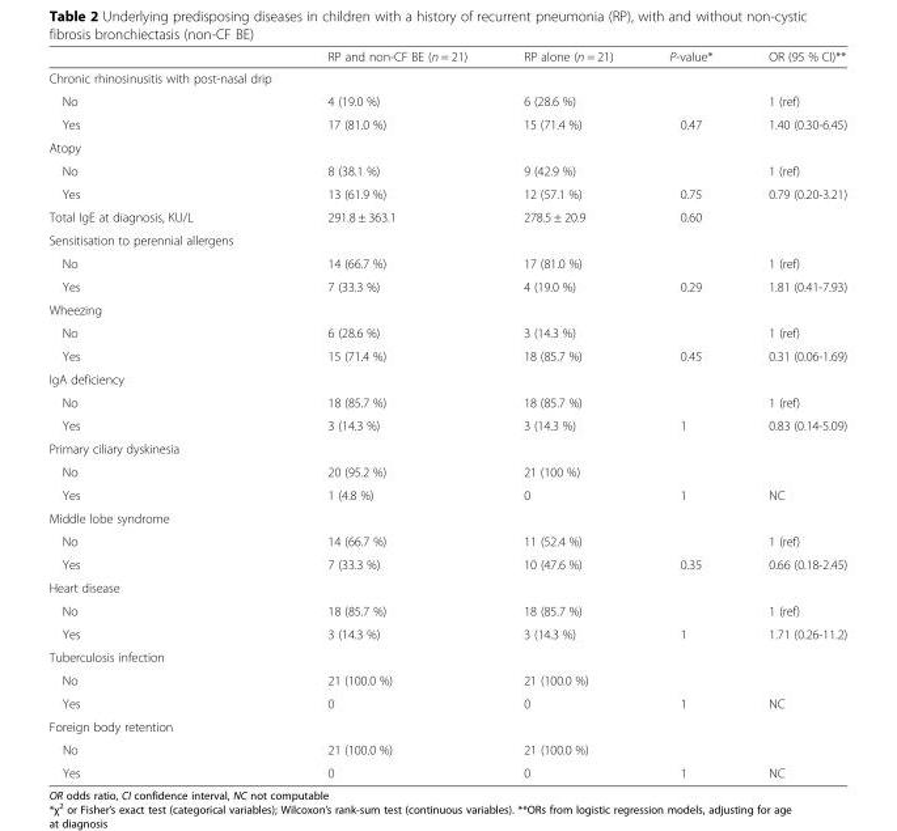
<table><thead><tr><td></td><td>RP and non-CF BE (n = 21)</td><td>RP alone (n = 21)</td><td>P-value*</td><td>OR (95 % CI)**</td></tr></thead><tbody><tr><td colspan="5">Chronic rhinosinusitis with post-nasal drip</td></tr><tr><td>No</td><td>4 (19.0 %)</td><td>6 (28.6 %)</td><td></td><td>1 (ref)</td></tr><tr><td>Yes</td><td>17 (81.0 %)</td><td>15 (71.4 %)</td><td>0.47</td><td>1.40 (0.30-6.45)</td></tr><tr><td colspan="5">Atopy</td></tr><tr><td>No</td><td>8 (38.1 %)</td><td>9 (42.9 %)</td><td></td><td>1 (ref)</td></tr><tr><td>Yes</td><td>13 (61.9 %)</td><td>12 (57.1 %)</td><td>0.75</td><td>0.79 (0.20-3.21)</td></tr><tr><td>Total IgE at diagnosis, KU/L</td><td>291.8 ± 363.1</td><td>278.5 ± 20.9</td><td>0.60</td><td></td></tr><tr><td colspan="5">Sensitisation to perennial allergens</td></tr><tr><td>No</td><td>14 (66.7 %)</td><td>17 (81.0 %)</td><td></td><td>1 (ref)</td></tr><tr><td>Yes</td><td>7 (33.3 %)</td><td>4 (19.0 %)</td><td>0.29</td><td>1.81 (0.41-7.93)</td></tr><tr><td colspan="5">Wheezing</td></tr><tr><td>No</td><td>6 (28.6 %)</td><td>3 (14.3 %)</td><td></td><td>1 (ref)</td></tr><tr><td>Yes</td><td>15 (71.4 %)</td><td>18 (85.7 %)</td><td>0.45</td><td>0.31 (0.06-1.69)</td></tr><tr><td colspan="5">IgA deficiency</td></tr><tr><td>No</td><td>18 (85.7 %)</td><td>18 (85.7 %)</td><td></td><td>1 (ref)</td></tr><tr><td>Yes</td><td>3 (14.3 %)</td><td>3 (14.3 %)</td><td>1</td><td>0.83 (0.14-5.09)</td></tr><tr><td colspan="5">Primary ciliary dyskinesia</td></tr><tr><td>No</td><td>20 (95.2 %)</td><td>21 (100 %)</td><td></td><td></td></tr><tr><td>Yes</td><td>1 (4.8 %)</td><td>0</td><td>1</td><td>NC</td></tr><tr><td colspan="5">Middle lobe syndrome</td></tr><tr><td>No</td><td>14 (66.7 %)</td><td>11 (52.4 %)</td><td></td><td>1 (ref)</td></tr><tr><td>Yes</td><td>7 (33.3 %)</td><td>10 (47.6 %)</td><td>0.35</td><td>0.66 (0.18-2.45)</td></tr><tr><td colspan="5">Heart disease</td></tr><tr><td>No</td><td>18 (85.7 %)</td><td>18 (85.7 %)</td><td></td><td>1 (ref)</td></tr><tr><td>Yes</td><td>3 (14.3 %)</td><td>3 (14.3 %)</td><td>1</td><td>1.71 (0.26-11.2)</td></tr><tr><td colspan="5">Tuberculosis infection</td></tr><tr><td>No</td><td>21 (100.0 %)</td><td>21 (100.0 %)</td><td></td><td></td></tr><tr><td>Yes</td><td>0</td><td>0</td><td>1</td><td>NC</td></tr><tr><td colspan="5">Foreign body retention</td></tr><tr><td>No</td><td>21 (100.0 %)</td><td>21 (100.0 %)</td><td></td><td></td></tr><tr><td>Yes</td><td>0</td><td>0</td><td>1</td><td>NC</td></tr></tbody></table>